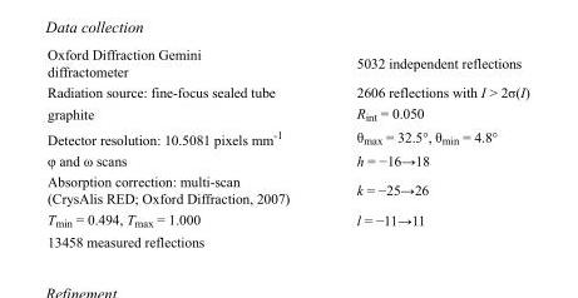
<table><tbody><tr><td>Oxford Diffraction Gemini diffractometer</td><td>5032 independent reflections</td></tr><tr><td>Radiation source: fine-focus sealed tube</td><td>2606 reflections with I &gt; 2σ(I)</td></tr><tr><td>graphite</td><td>R<sub>int</sub> = 0.050</td></tr><tr><td>Detector resolution: 10.5081 pixels mm<sup>-1</sup></td><td>θ<sub>max</sub> = 32.5°, θ<sub>min</sub> = 4.8°</td></tr><tr><td>φ and ω scans</td><td>h = −16→18</td></tr><tr><td>Absorption correction: multi-scan (CrysAlis RED; Oxford Diffraction, 2007)</td><td>k = −25→26</td></tr><tr><td>T<sub>min</sub> = 0.494, T<sub>max</sub> = 1.000</td><td>l = −11→11</td></tr><tr><td>13458 measured reflections</td><td></td></tr></tbody></table>